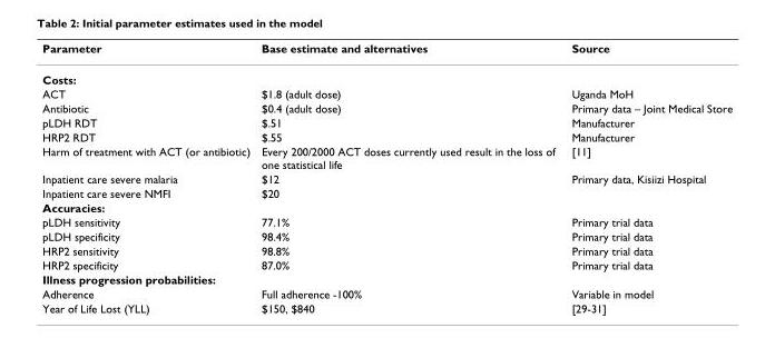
<table><thead><tr><td>Parameter</td><td>Base estimate and alternatives</td><td>Source</td></tr></thead><tbody><tr><td colspan="3">Costs:</td></tr><tr><td>ACT</td><td>$1.8 (adult dose)</td><td>Uganda MoH</td></tr><tr><td>Antibiotic</td><td>$0.4 (adult dose)</td><td>Primary data – Joint Medical Store</td></tr><tr><td>pLDH RDT</td><td>$.51</td><td>Manufacturer</td></tr><tr><td>HRP2 RDT</td><td>$.55</td><td>Manufacturer</td></tr><tr><td>Harm of treatment with ACT (or antibiotic)</td><td>Every 200/2000 ACT doses currently used result in the loss of one statistical life</td><td>[11]</td></tr><tr><td>Inpatient care severe malaria</td><td>$12</td><td>Primary data, Kisiizi Hospital</td></tr><tr><td>Inpatient care severe NMFI</td><td>$20</td><td></td></tr><tr><td colspan="3">Accuracies:</td></tr><tr><td>pLDH sensitivity</td><td>77.1%</td><td>Primary trial data</td></tr><tr><td>pLDH specificity</td><td>98.4%</td><td>Primary trial data</td></tr><tr><td>HRP2 sensitivity</td><td>98.8%</td><td>Primary trial data</td></tr><tr><td>HRP2 specificity</td><td>87.0%</td><td>Primary trial data</td></tr><tr><td colspan="3">Illness progression probabilities:</td></tr><tr><td>Adherence</td><td>Full adherence -100%</td><td>Variable in model</td></tr><tr><td>Year of Life Lost (YLL)</td><td>$150, $840</td><td>[29-31]</td></tr></tbody></table>